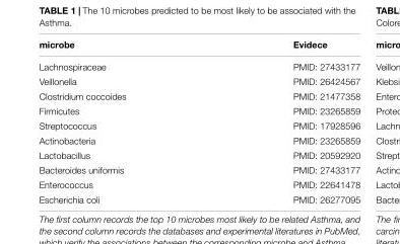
<table><thead><tr><td>microbe</td><td>Evidece</td></tr></thead><tbody><tr><td>Lachnospiraceae</td><td>PMID: 27433177</td></tr><tr><td>Veillonella</td><td>PMID: 26424567</td></tr><tr><td>Clostridium coccoides</td><td>PMID: 21477358</td></tr><tr><td>Firmicutes</td><td>PMID: 23265859</td></tr><tr><td>Streptococcus</td><td>PMID: 17928596</td></tr><tr><td>Actinobacteria</td><td>PMID: 23265859</td></tr><tr><td>Lactobacillus</td><td>PMID: 20592920</td></tr><tr><td>Bacteroides uniformis</td><td>PMID: 27433177</td></tr><tr><td>Enterococcus</td><td>PMID: 22641478</td></tr><tr><td>Escherichia coli</td><td>PMID: 26277095</td></tr></tbody></table>